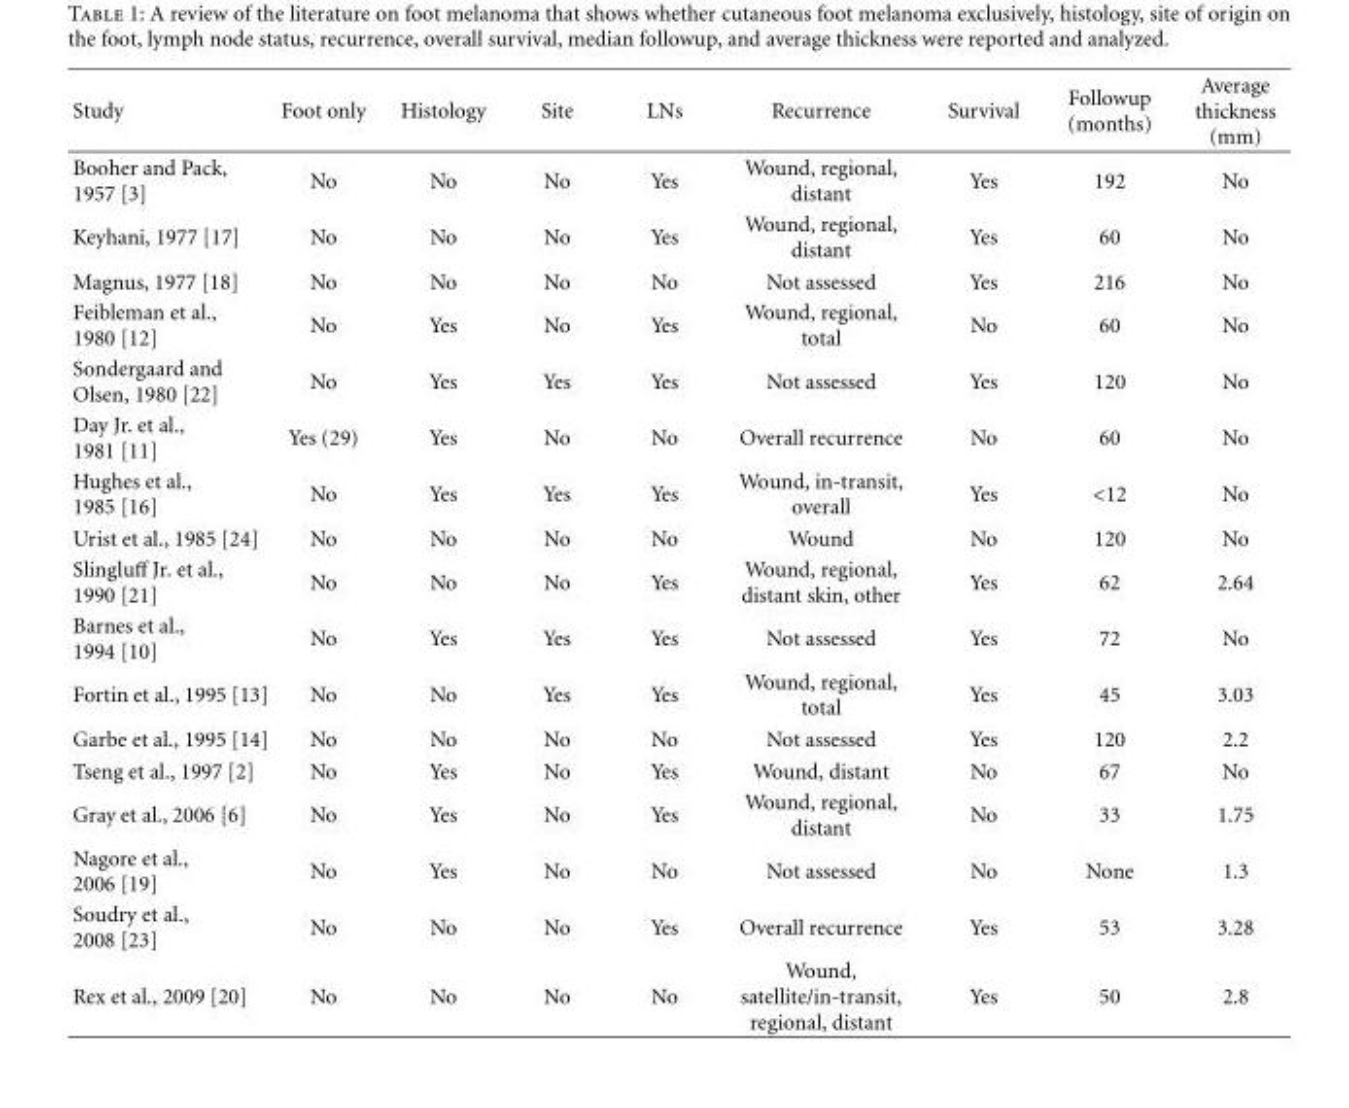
<table><thead><tr><td>Study</td><td>Foot only</td><td>Histology</td><td>Site</td><td>LNs</td><td>Recurrence</td><td>Survival</td><td>Followup (months)</td><td>Average thickness (mm)</td></tr></thead><tbody><tr><td>Booher and Pack, 1957 [3]</td><td>No</td><td>No</td><td>No</td><td>Yes</td><td>Wound, regional, distant</td><td>Yes</td><td>192</td><td>No</td></tr><tr><td>Keyhani, 1977 [17]</td><td>No</td><td>No</td><td>No</td><td>Yes</td><td>Wound, regional, distant</td><td>Yes</td><td>60</td><td>No</td></tr><tr><td>Magnus, 1977 [18]</td><td>No</td><td>No</td><td>No</td><td>No</td><td>Not assessed</td><td>Yes</td><td>216</td><td>No</td></tr><tr><td>Feibleman et al., 1980 [12]</td><td>No</td><td>Yes</td><td>No</td><td>Yes</td><td>Wound, regional, total</td><td>No</td><td>60</td><td>No</td></tr><tr><td>Sondergaard and Olsen, 1980 [22]</td><td>No</td><td>Yes</td><td>Yes</td><td>Yes</td><td>Not assessed</td><td>Yes</td><td>120</td><td>No</td></tr><tr><td>Day Jr. et al., 1981 [11]</td><td>Yes (29)</td><td>Yes</td><td>No</td><td>No</td><td>Overall recurrence</td><td>No</td><td>60</td><td>No</td></tr><tr><td>Hughes et al., 1985 [16]</td><td>No</td><td>Yes</td><td>Yes</td><td>Yes</td><td>Wound, in-transit, overall</td><td>Yes</td><td>&lt;12</td><td>No</td></tr><tr><td>Urist et al., 1985 [24]</td><td>No</td><td>No</td><td>No</td><td>No</td><td>Wound</td><td>No</td><td>120</td><td>No</td></tr><tr><td>Slingluff Jr. et al., 1990 [21]</td><td>No</td><td>No</td><td>No</td><td>Yes</td><td>Wound, regional, distant skin, other</td><td>Yes</td><td>62</td><td>2.64</td></tr><tr><td>Barnes et al., 1994 [10]</td><td>No</td><td>Yes</td><td>Yes</td><td>Yes</td><td>Not assessed</td><td>Yes</td><td>72</td><td>No</td></tr><tr><td>Fortin et al., 1995 [13]</td><td>No</td><td>No</td><td>Yes</td><td>Yes</td><td>Wound, regional, total</td><td>Yes</td><td>45</td><td>3.03</td></tr><tr><td>Garbe et al., 1995 [14]</td><td>No</td><td>No</td><td>No</td><td>No</td><td>Not assessed</td><td>Yes</td><td>120</td><td>2.2</td></tr><tr><td>Tseng et al., 1997 [2]</td><td>No</td><td>Yes</td><td>No</td><td>Yes</td><td>Wound, distant</td><td>No</td><td>67</td><td>No</td></tr><tr><td>Gray et al., 2006 [6]</td><td>No</td><td>Yes</td><td>No</td><td>Yes</td><td>Wound, regional, distant</td><td>No</td><td>33</td><td>1.75</td></tr><tr><td>Nagore et al., 2006 [19]</td><td>No</td><td>Yes</td><td>No</td><td>No</td><td>Not assessed</td><td>No</td><td>None</td><td>1.3</td></tr><tr><td>Soudry et al., 2008 [23]</td><td>No</td><td>No</td><td>No</td><td>Yes</td><td>Overall recurrence</td><td>Yes</td><td>53</td><td>3.28</td></tr><tr><td>Rex et al., 2009 [20]</td><td>No</td><td>No</td><td>No</td><td>No</td><td>Wound, satellite/in-transit, regional, distant</td><td>Yes</td><td>50</td><td>2.8</td></tr></tbody></table>